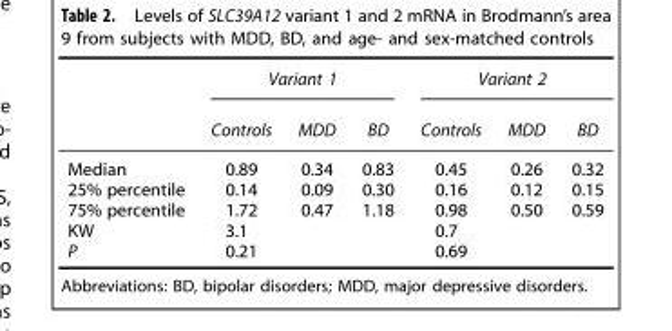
<table><thead><tr><td rowspan="2"></td><td colspan="3">Variant 1</td><td colspan="3">Variant 2</td></tr><tr><td>Controls</td><td>MDD</td><td>BD</td><td>Controls</td><td>MDD</td><td>BD</td></tr></thead><tbody><tr><td>Median</td><td>0.89</td><td>0.34</td><td>0.83</td><td>0.45</td><td>0.26</td><td>0.32</td></tr><tr><td>25% percentile</td><td>0.14</td><td>0.09</td><td>0.30</td><td>0.16</td><td>0.12</td><td>0.15</td></tr><tr><td>75% percentile</td><td>1.72</td><td>0.47</td><td>1.18</td><td>0.98</td><td>0.50</td><td>0.59</td></tr><tr><td>KW</td><td>3.1</td><td></td><td></td><td>0.7</td><td></td><td></td></tr><tr><td>P</td><td>0.21</td><td></td><td></td><td>0.69</td><td></td><td></td></tr></tbody></table>